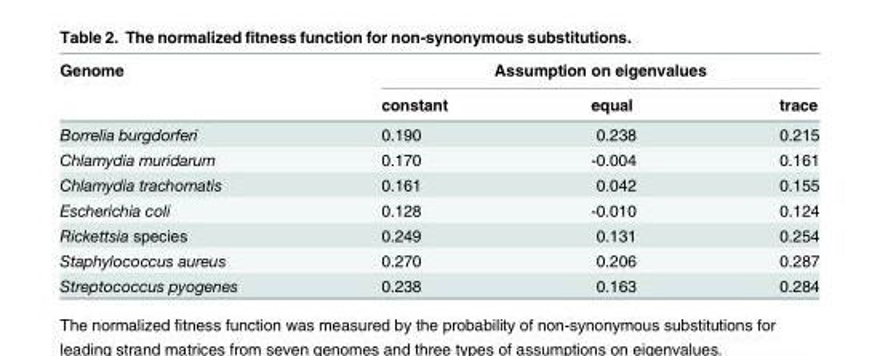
<table><thead><tr><td rowspan="2">Genome</td><td colspan="3">Assumption on eigenvalues</td></tr><tr><td>constant</td><td>equal</td><td>trace</td></tr></thead><tbody><tr><td>Borrelia burgdorferi</td><td>0.190</td><td>0.238</td><td>0.215</td></tr><tr><td>Chlamydia muridarum</td><td>0.170</td><td>-0.004</td><td>0.161</td></tr><tr><td>Chlamydia trachomatis</td><td>0.161</td><td>0.042</td><td>0.155</td></tr><tr><td>Escherichia coli</td><td>0.128</td><td>-0.010</td><td>0.124</td></tr><tr><td>Rickettsia species</td><td>0.249</td><td>0.131</td><td>0.254</td></tr><tr><td>Staphylococcus aureus</td><td>0.270</td><td>0.206</td><td>0.287</td></tr><tr><td>Streptococcus pyogenes</td><td>0.238</td><td>0.163</td><td>0.284</td></tr></tbody></table>